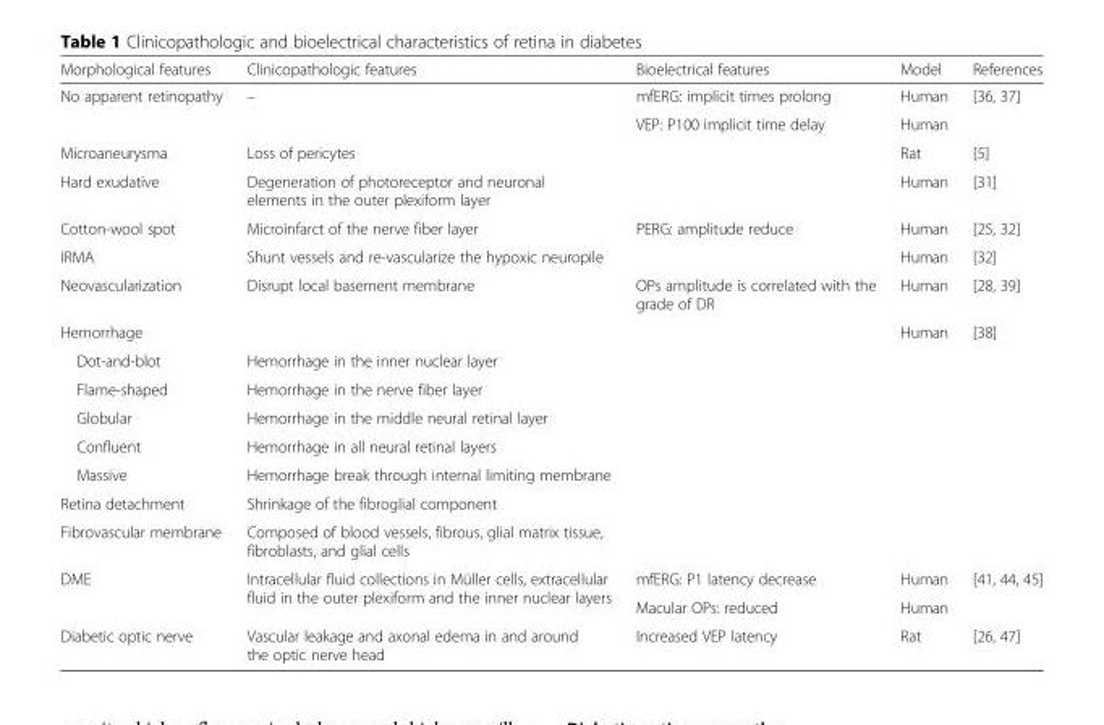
<table><thead><tr><td>Morphological features</td><td>Clinicopathologic features</td><td>Bioelectrical features</td><td>Model</td><td>References</td></tr></thead><tbody><tr><td rowspan="2">No apparent retinopathy</td><td rowspan="2">–</td><td>mfERG: implicit times prolong</td><td>Human</td><td rowspan="2">[36, 37]</td></tr><tr><td>VEP: P100 implicit time delay</td><td>Human</td></tr><tr><td>Microaneurysma</td><td>Loss of pericytes</td><td></td><td>Rat</td><td>[5]</td></tr><tr><td>Hard exudative</td><td>Degeneration of photoreceptor and neuronal elements in the outer plexiform layer</td><td></td><td>Human</td><td>[31]</td></tr><tr><td>Cotton-wool spot</td><td>Microinfarct of the nerve fiber layer</td><td>PERG: amplitude reduce</td><td>Human</td><td>[25, 32]</td></tr><tr><td>IRMA</td><td>Shunt vessels and re-vascularize the hypoxic neuropile</td><td></td><td>Human</td><td>[32]</td></tr><tr><td>Neovascularization</td><td>Disrupt local basement membrane</td><td>OPs amplitude is correlated with the grade of DR</td><td>Human</td><td>[28, 39]</td></tr><tr><td colspan="2">Hemorrhage</td><td rowspan="6"></td><td rowspan="6">Human</td><td rowspan="6">[38]</td></tr><tr><td>Dot-and-blot</td><td>Hemorrhage in the inner nuclear layer</td></tr><tr><td>Flame-shaped</td><td>Hemorrhage in the nerve fiber layer</td></tr><tr><td>Globular</td><td>Hemorrhage in the middle neural retinal layer</td></tr><tr><td>Confluent</td><td>Hemorrhage in all neural retinal layers</td></tr><tr><td>Massive</td><td>Hemorrhage break through internal limiting membrane</td></tr><tr><td>Retina detachment</td><td>Shrinkage of the fibroglial component</td><td></td><td></td><td></td></tr><tr><td>Fibrovascular membrane</td><td>Composed of blood vessels, fibrous, glial matrix tissue, fibroblasts, and glial cells</td><td></td><td></td><td></td></tr><tr><td rowspan="2">DME</td><td rowspan="2">Intracellular fluid collections in Müller cells, extracellular fluid in the outer plexiform and the inner nuclear layers</td><td>mfERG: P1 latency decrease</td><td>Human</td><td rowspan="2">[41, 44, 45]</td></tr><tr><td>Macular OPs: reduced</td><td>Human</td></tr><tr><td>Diabetic optic nerve</td><td>Vascular leakage and axonal edema in and around the optic nerve head</td><td>Increased VEP latency</td><td>Rat</td><td>[26, 47]</td></tr></tbody></table>